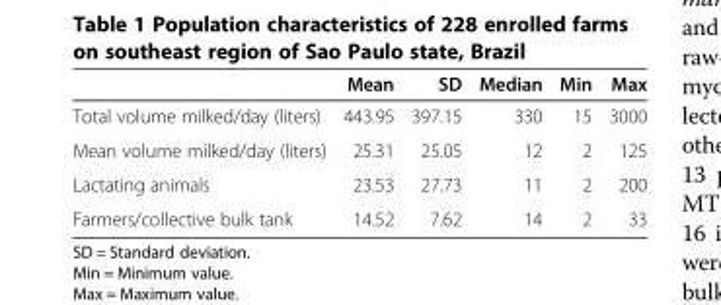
<table><thead><tr><td></td><td>Mean</td><td>SD</td><td>Median</td><td>Min</td><td>Max</td></tr></thead><tbody><tr><td>Total volume milked/day (liters)</td><td>443.95</td><td>397.15</td><td>330</td><td>15</td><td>3000</td></tr><tr><td>Mean volume milked/day (liters)</td><td>25.31</td><td>25.05</td><td>12</td><td>2</td><td>125</td></tr><tr><td>Lactating animals</td><td>23.53</td><td>27.73</td><td>11</td><td>2</td><td>200</td></tr><tr><td>Farmers/collective bulk tank</td><td>14.52</td><td>7.62</td><td>14</td><td>2</td><td>33</td></tr></tbody></table>